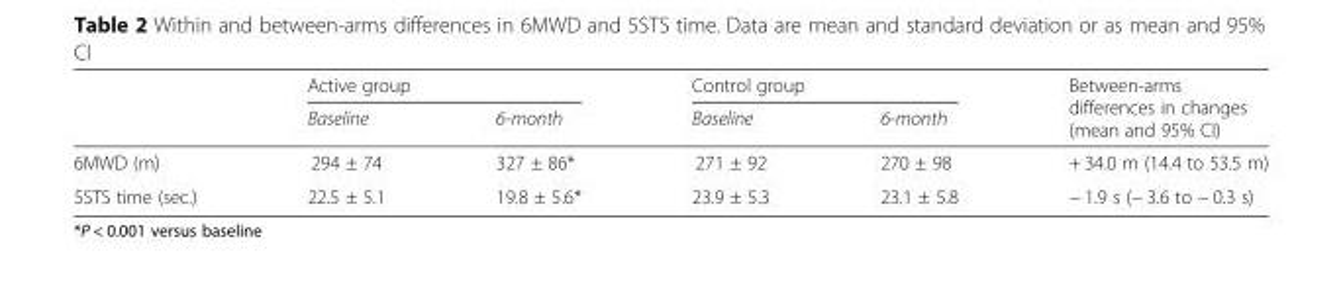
<table><thead><tr><td rowspan="2"></td><td colspan="2">Active group</td><td colspan="2">Control group</td><td rowspan="2">Between-arms differences in changes (mean and 95% CI)</td></tr><tr><td>Baseline</td><td>6-month</td><td>Baseline</td><td>6-month</td></tr></thead><tbody><tr><td>6MWD (m)</td><td>294 ± 74</td><td>327 ± 86*</td><td>271 ± 92</td><td>270 ± 98</td><td>+ 34.0 m (14.4 to 53.5 m)</td></tr><tr><td>5STS time (sec.)</td><td>22.5 ± 5.1</td><td>19.8 ± 5.6*</td><td>23.9 ± 5.3</td><td>23.1 ± 5.8</td><td>− 1.9 s (− 3.6 to − 0.3 s)</td></tr></tbody></table>